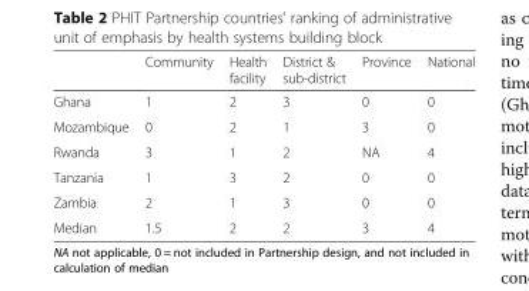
<table><thead><tr><td></td><td>Community</td><td>Health facility</td><td>District &amp; sub-district</td><td>Province</td><td>National</td></tr></thead><tbody><tr><td>Ghana</td><td>1</td><td>2</td><td>3</td><td>0</td><td>0</td></tr><tr><td>Mozambique</td><td>0</td><td>2</td><td>1</td><td>3</td><td>0</td></tr><tr><td>Rwanda</td><td>3</td><td>1</td><td>2</td><td>NA</td><td>4</td></tr><tr><td>Tanzania</td><td>1</td><td>3</td><td>2</td><td>0</td><td>0</td></tr><tr><td>Zambia</td><td>2</td><td>1</td><td>3</td><td>0</td><td>0</td></tr><tr><td>Median</td><td>1.5</td><td>2</td><td>2</td><td>3</td><td>4</td></tr></tbody></table>